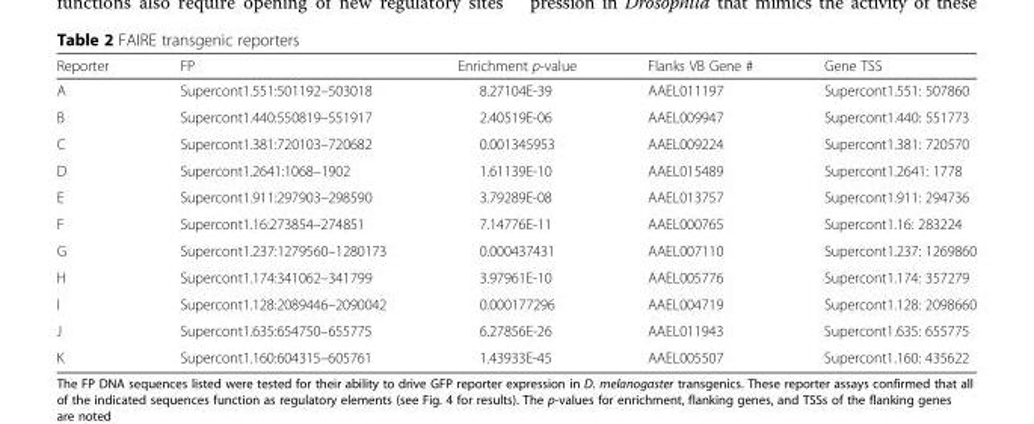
<table><thead><tr><td>Reporter</td><td>FP</td><td>Enrichment p-value</td><td>Flanks VB Gene #</td><td>Gene TSS</td></tr></thead><tbody><tr><td>A</td><td>Supercont1.551:501192–503018</td><td>8.27104E-39</td><td>AAEL011197</td><td>Supercont1.551: 507860</td></tr><tr><td>B</td><td>Supercont1.440:550819–551917</td><td>2.40519E-06</td><td>AAEL009947</td><td>Supercont1.440: 551773</td></tr><tr><td>C</td><td>Supercont1.381:720103–720682</td><td>0.001345953</td><td>AAEL009224</td><td>Supercont1.381: 720570</td></tr><tr><td>D</td><td>Supercont1.2641:1068–1902</td><td>1.61139E-10</td><td>AAEL015489</td><td>Supercont1.2641: 1778</td></tr><tr><td>E</td><td>Supercont1.911:297903–298590</td><td>3.79289E-08</td><td>AAEL013757</td><td>Supercont1.911: 294736</td></tr><tr><td>F</td><td>Supercont1.16:273854–274851</td><td>7.14776E-11</td><td>AAEL000765</td><td>Supercont1.16: 283224</td></tr><tr><td>G</td><td>Supercont1.237:1279560–1280173</td><td>0.000437431</td><td>AAEL007110</td><td>Supercont1.237: 1269860</td></tr><tr><td>H</td><td>Supercont1.174:341062–341799</td><td>3.97961E-10</td><td>AAEL005776</td><td>Supercont1.174: 357279</td></tr><tr><td>I</td><td>Supercont1.128:2089446–2090042</td><td>0.000177296</td><td>AAEL004719</td><td>Supercont1.128: 2098660</td></tr><tr><td>J</td><td>Supercont1.635:654750–655775</td><td>6.27856E-26</td><td>AAEL011943</td><td>Supercont1.635: 655775</td></tr><tr><td>K</td><td>Supercont1.160:604315–605761</td><td>1.43933E-45</td><td>AAEL005507</td><td>Supercont1.160: 435622</td></tr></tbody></table>